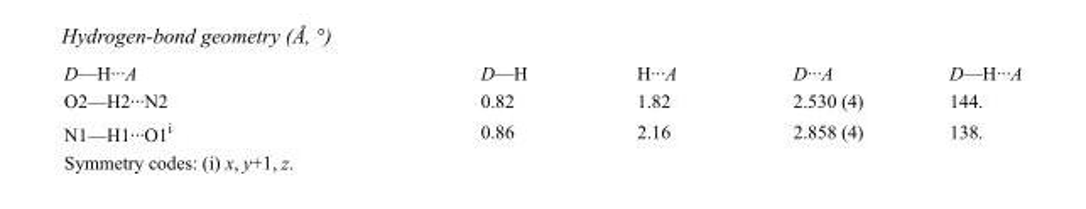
<table><tbody><tr><td>D—H···A</td><td>D—H</td><td>H···A</td><td>D···A</td><td>D—H···A</td></tr><tr><td>O2—H2···N2</td><td>0.82</td><td>1.82</td><td>2.530 (4)</td><td>144.</td></tr><tr><td>N1—H1···O1<sup>i</sup></td><td>0.86</td><td>2.16</td><td>2.858 (4)</td><td>138.</td></tr></tbody></table>